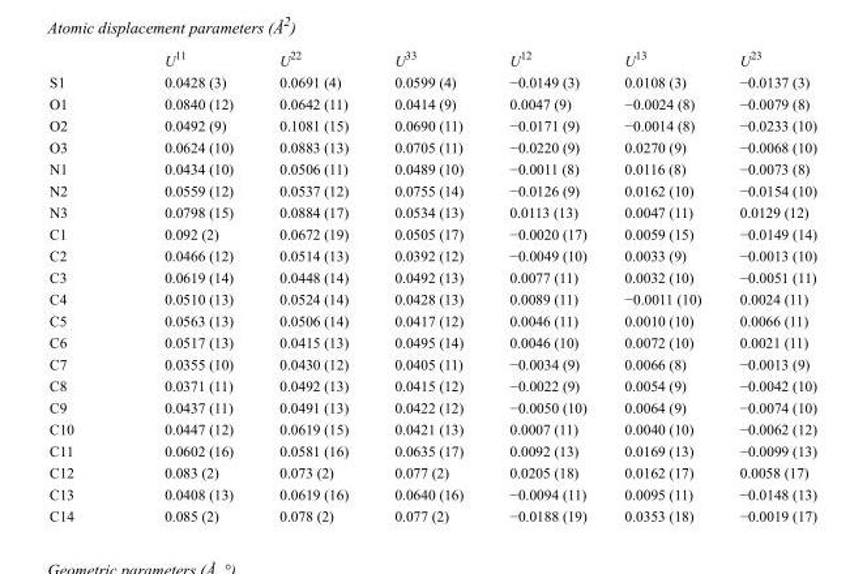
<table><thead><tr><td></td><td>U<sup>11</sup></td><td>U<sup>22</sup></td><td>U<sup>33</sup></td><td>U<sup>12</sup></td><td>U<sup>13</sup></td><td>U<sup>23</sup></td></tr></thead><tbody><tr><td>S1</td><td>0.0428 (3)</td><td>0.0691 (4)</td><td>0.0599 (4)</td><td>−0.0149 (3)</td><td>0.0108 (3)</td><td>−0.0137 (3)</td></tr><tr><td>O1</td><td>0.0840 (12)</td><td>0.0642 (11)</td><td>0.0414 (9)</td><td>0.0047 (9)</td><td>−0.0024 (8)</td><td>−0.0079 (8)</td></tr><tr><td>O2</td><td>0.0492 (9)</td><td>0.1081 (15)</td><td>0.0690 (11)</td><td>−0.0171 (9)</td><td>−0.0014 (8)</td><td>−0.0233 (10)</td></tr><tr><td>O3</td><td>0.0624 (10)</td><td>0.0883 (13)</td><td>0.0705 (11)</td><td>−0.0220 (9)</td><td>0.0270 (9)</td><td>−0.0068 (10)</td></tr><tr><td>N1</td><td>0.0434 (10)</td><td>0.0506 (11)</td><td>0.0489 (10)</td><td>−0.0011 (8)</td><td>0.0116 (8)</td><td>−0.0073 (8)</td></tr><tr><td>N2</td><td>0.0559 (12)</td><td>0.0537 (12)</td><td>0.0755 (14)</td><td>−0.0126 (9)</td><td>0.0162 (10)</td><td>−0.0154 (10)</td></tr><tr><td>N3</td><td>0.0798 (15)</td><td>0.0884 (17)</td><td>0.0534 (13)</td><td>0.0113 (13)</td><td>0.0047 (11)</td><td>0.0129 (12)</td></tr><tr><td>C1</td><td>0.092 (2)</td><td>0.0672 (19)</td><td>0.0505 (17)</td><td>−0.0020 (17)</td><td>0.0059 (15)</td><td>−0.0149 (14)</td></tr><tr><td>C2</td><td>0.0466 (12)</td><td>0.0514 (13)</td><td>0.0392 (12)</td><td>−0.0049 (10)</td><td>0.0033 (9)</td><td>−0.0013 (10)</td></tr><tr><td>C3</td><td>0.0619 (14)</td><td>0.0448 (14)</td><td>0.0492 (13)</td><td>0.0077 (11)</td><td>0.0032 (10)</td><td>−0.0051 (11)</td></tr><tr><td>C4</td><td>0.0510 (13)</td><td>0.0524 (14)</td><td>0.0428 (13)</td><td>0.0089 (11)</td><td>−0.0011 (10)</td><td>0.0024 (11)</td></tr><tr><td>C5</td><td>0.0563 (13)</td><td>0.0506 (14)</td><td>0.0417 (12)</td><td>0.0046 (11)</td><td>0.0010 (10)</td><td>0.0066 (11)</td></tr><tr><td>C6</td><td>0.0517 (13)</td><td>0.0415 (13)</td><td>0.0495 (14)</td><td>0.0046 (10)</td><td>0.0072 (10)</td><td>0.0021 (11)</td></tr><tr><td>C7</td><td>0.0355 (10)</td><td>0.0430 (12)</td><td>0.0405 (11)</td><td>−0.0034 (9)</td><td>0.0066 (8)</td><td>−0.0013 (9)</td></tr><tr><td>C8</td><td>0.0371 (11)</td><td>0.0492 (13)</td><td>0.0415 (12)</td><td>−0.0022 (9)</td><td>0.0054 (9)</td><td>−0.0042 (10)</td></tr><tr><td>C9</td><td>0.0437 (11)</td><td>0.0491 (13)</td><td>0.0422 (12)</td><td>−0.0050 (10)</td><td>0.0064 (9)</td><td>−0.0074 (10)</td></tr><tr><td>C10</td><td>0.0447 (12)</td><td>0.0619 (15)</td><td>0.0421 (13)</td><td>0.0007 (11)</td><td>0.0040 (10)</td><td>−0.0062 (12)</td></tr><tr><td>C11</td><td>0.0602 (16)</td><td>0.0581 (16)</td><td>0.0635 (17)</td><td>0.0092 (13)</td><td>0.0169 (13)</td><td>−0.0099 (13)</td></tr><tr><td>C12</td><td>0.083 (2)</td><td>0.073 (2)</td><td>0.077 (2)</td><td>0.0205 (18)</td><td>0.0162 (17)</td><td>0.0058 (17)</td></tr><tr><td>C13</td><td>0.0408 (13)</td><td>0.0619 (16)</td><td>0.0640 (16)</td><td>−0.0094 (11)</td><td>0.0095 (11)</td><td>−0.0148 (13)</td></tr><tr><td>C14</td><td>0.085 (2)</td><td>0.078 (2)</td><td>0.077 (2)</td><td>−0.0188 (19)</td><td>0.0353 (18)</td><td>−0.0019 (17)</td></tr></tbody></table>